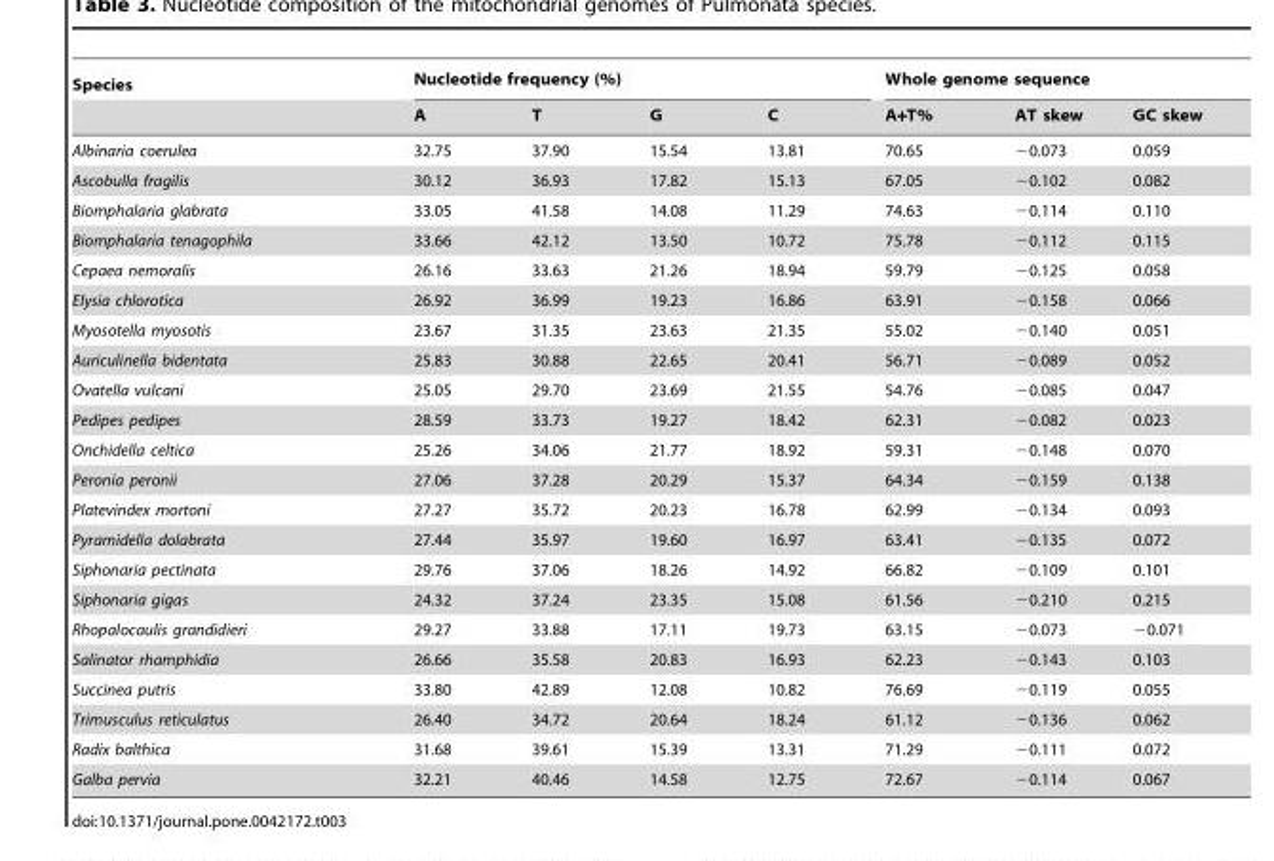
<table><thead><tr><td rowspan="2">Species</td><td colspan="4">Nucleotide frequency (%)</td><td colspan="3">Whole genome sequence</td></tr><tr><td>A</td><td>T</td><td>G</td><td>C</td><td>A+T%</td><td>AT skew</td><td>GC skew</td></tr></thead><tbody><tr><td>Albinaria coerulea</td><td>32.75</td><td>37.90</td><td>15.54</td><td>13.81</td><td>70.65</td><td>−0.073</td><td>0.059</td></tr><tr><td>Ascobulla fragilis</td><td>30.12</td><td>36.93</td><td>17.82</td><td>15.13</td><td>67.05</td><td>−0.102</td><td>0.082</td></tr><tr><td>Biomphalaria glabrata</td><td>33.05</td><td>41.58</td><td>14.08</td><td>11.29</td><td>74.63</td><td>−0.114</td><td>0.110</td></tr><tr><td>Biomphalaria tenagophila</td><td>33.66</td><td>42.12</td><td>13.50</td><td>10.72</td><td>75.78</td><td>−0.112</td><td>0.115</td></tr><tr><td>Cepaea nemoralis</td><td>26.16</td><td>33.63</td><td>21.26</td><td>18.94</td><td>59.79</td><td>−0.125</td><td>0.058</td></tr><tr><td>Elysia chlorotica</td><td>26.92</td><td>36.99</td><td>19.23</td><td>16.86</td><td>63.91</td><td>−0.158</td><td>0.066</td></tr><tr><td>Myosotella myosotis</td><td>23.67</td><td>31.35</td><td>23.63</td><td>21.35</td><td>55.02</td><td>−0.140</td><td>0.051</td></tr><tr><td>Auriculinella bidentata</td><td>25.83</td><td>30.88</td><td>22.65</td><td>20.41</td><td>56.71</td><td>−0.089</td><td>0.052</td></tr><tr><td>Ovatella vulcani</td><td>25.05</td><td>29.70</td><td>23.69</td><td>21.55</td><td>54.76</td><td>−0.085</td><td>0.047</td></tr><tr><td>Pedipes pedipes</td><td>28.59</td><td>33.73</td><td>19.27</td><td>18.42</td><td>62.31</td><td>−0.082</td><td>0.023</td></tr><tr><td>Onchidella celtica</td><td>25.26</td><td>34.06</td><td>21.77</td><td>18.92</td><td>59.31</td><td>−0.148</td><td>0.070</td></tr><tr><td>Peronia peronii</td><td>27.06</td><td>37.28</td><td>20.29</td><td>15.37</td><td>64.34</td><td>−0.159</td><td>0.138</td></tr><tr><td>Platevindex mortoni</td><td>27.27</td><td>35.72</td><td>20.23</td><td>16.78</td><td>62.99</td><td>−0.134</td><td>0.093</td></tr><tr><td>Pyramidella dolabrata</td><td>27.44</td><td>35.97</td><td>19.60</td><td>16.97</td><td>63.41</td><td>−0.135</td><td>0.072</td></tr><tr><td>Siphonaria pectinata</td><td>29.76</td><td>37.06</td><td>18.26</td><td>14.92</td><td>66.82</td><td>−0.109</td><td>0.101</td></tr><tr><td>Siphonaria gigas</td><td>24.32</td><td>37.24</td><td>23.35</td><td>15.08</td><td>61.56</td><td>−0.210</td><td>0.215</td></tr><tr><td>Rhopalocaulis grandidieri</td><td>29.27</td><td>33.88</td><td>17.11</td><td>19.73</td><td>63.15</td><td>−0.073</td><td>−0.071</td></tr><tr><td>Salinator rhamphidia</td><td>26.66</td><td>35.58</td><td>20.83</td><td>16.93</td><td>62.23</td><td>−0.143</td><td>0.103</td></tr><tr><td>Succinea putris</td><td>33.80</td><td>42.89</td><td>12.08</td><td>10.82</td><td>76.69</td><td>−0.119</td><td>0.055</td></tr><tr><td>Trimusculus reticulatus</td><td>26.40</td><td>34.72</td><td>20.64</td><td>18.24</td><td>61.12</td><td>−0.136</td><td>0.062</td></tr><tr><td>Radix balthica</td><td>31.68</td><td>39.61</td><td>15.39</td><td>13.31</td><td>71.29</td><td>−0.111</td><td>0.072</td></tr><tr><td>Galba pervia</td><td>32.21</td><td>40.46</td><td>14.58</td><td>12.75</td><td>72.67</td><td>−0.114</td><td>0.067</td></tr></tbody></table>